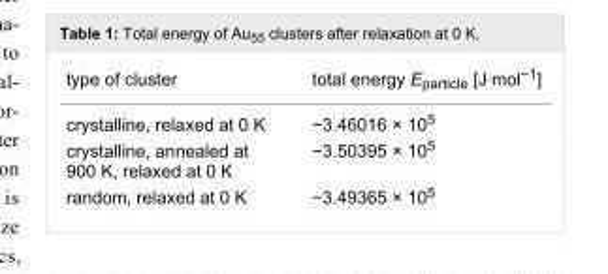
<table><tbody><tr><td>type of cluster</td><td>total energy E<sub>particle</sub> [J·mol<sup>−1</sup>]</td></tr><tr><td>crystalline, relaxed at 0 K</td><td>−3.46016 × 10<sup>5</sup></td></tr><tr><td>crystalline, annealed at 900 K, relaxed at 0 K</td><td>−3.50395 × 10<sup>5</sup></td></tr><tr><td>random, relaxed at 0 K</td><td>−3.49365 × 10<sup>5</sup></td></tr></tbody></table>